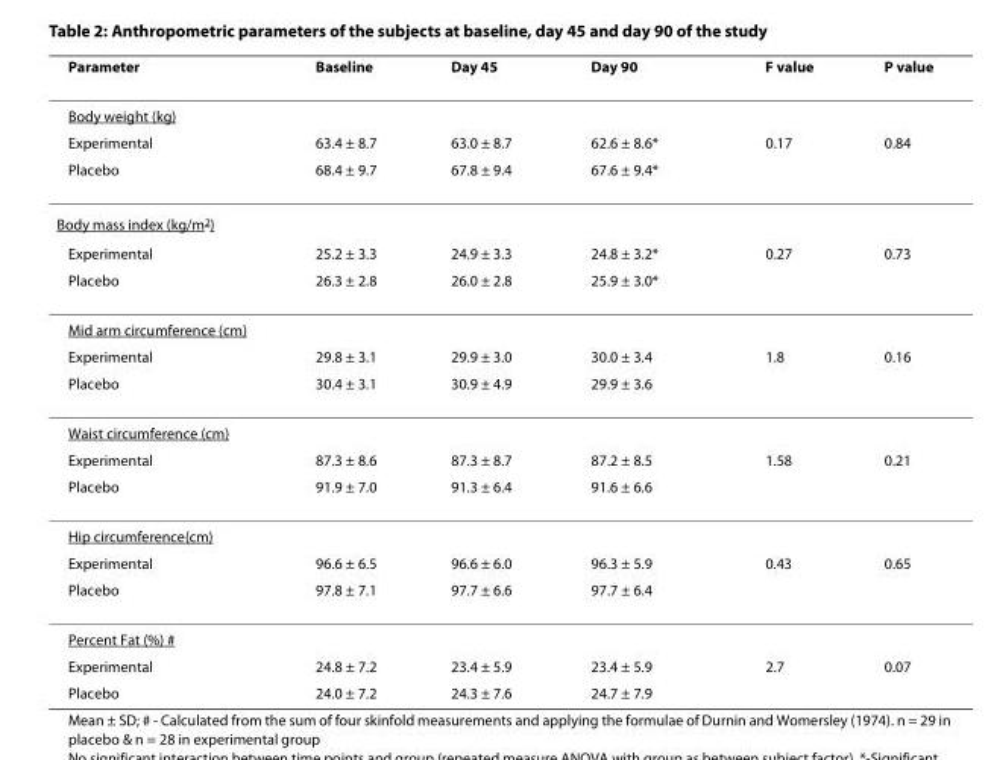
<table><thead><tr><td>Parameter</td><td>Baseline</td><td>Day 45</td><td>Day 90</td><td>F value</td><td>P value</td></tr></thead><tbody><tr><td colspan="6">Body weight (kg)</td></tr><tr><td>Experimental</td><td>63.4 ± 8.7</td><td>63.0 ± 8.7</td><td>62.6 ± 8.6*</td><td>0.17</td><td>0.84</td></tr><tr><td>Placebo</td><td>68.4 ± 9.7</td><td>67.8 ± 9.4</td><td>67.6 ± 9.4*</td><td></td><td></td></tr><tr><td colspan="6">Body mass index (kg/m<sup>2</sup>)</td></tr><tr><td>Experimental</td><td>25.2 ± 3.3</td><td>24.9 ± 3.3</td><td>24.8 ± 3.2*</td><td>0.27</td><td>0.73</td></tr><tr><td>Placebo</td><td>26.3 ± 2.8</td><td>26.0 ± 2.8</td><td>25.9 ± 3.0*</td><td></td><td></td></tr><tr><td colspan="6">Mid arm circumference (cm)</td></tr><tr><td>Experimental</td><td>29.8 ± 3.1</td><td>29.9 ± 3.0</td><td>30.0 ± 3.4</td><td>1.8</td><td>0.16</td></tr><tr><td>Placebo</td><td>30.4 ± 3.1</td><td>30.9 ± 4.9</td><td>29.9 ± 3.6</td><td></td><td></td></tr><tr><td colspan="6">Waist circumference (cm)</td></tr><tr><td>Experimental</td><td>87.3 ± 8.6</td><td>87.3 ± 8.7</td><td>87.2 ± 8.5</td><td>1.58</td><td>0.21</td></tr><tr><td>Placebo</td><td>91.9 ± 7.0</td><td>91.3 ± 6.4</td><td>91.6 ± 6.6</td><td></td><td></td></tr><tr><td colspan="6">Hip circumference(cm)</td></tr><tr><td>Experimental</td><td>96.6 ± 6.5</td><td>96.6 ± 6.0</td><td>96.3 ± 5.9</td><td>0.43</td><td>0.65</td></tr><tr><td>Placebo</td><td>97.8 ± 7.1</td><td>97.7 ± 6.6</td><td>97.7 ± 6.4</td><td></td><td></td></tr><tr><td colspan="6">Percent Fat (%) #</td></tr><tr><td>Experimental</td><td>24.8 ± 7.2</td><td>23.4 ± 5.9</td><td>23.4 ± 5.9</td><td>2.7</td><td>0.07</td></tr><tr><td>Placebo</td><td>24.0 ± 7.2</td><td>24.3 ± 7.6</td><td>24.7 ± 7.9</td><td></td><td></td></tr></tbody></table>